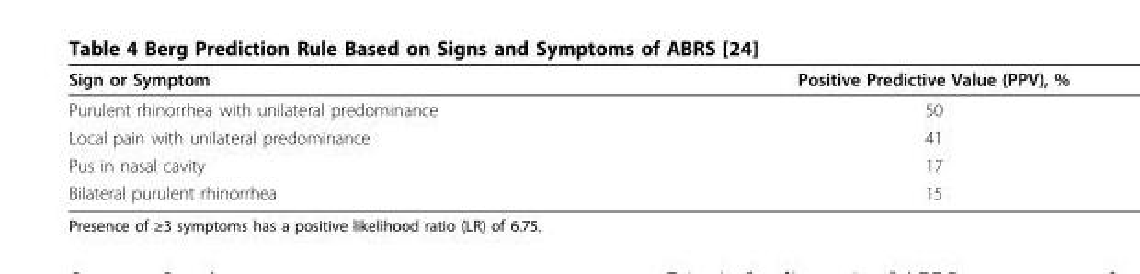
<table><thead><tr><td>Sign or Symptom</td><td>Positive Predictive Value (PPV), %</td></tr></thead><tbody><tr><td>Purulent rhinorrhea with unilateral predominance</td><td>50</td></tr><tr><td>Local pain with unilateral predominance</td><td>41</td></tr><tr><td>Pus in nasal cavity</td><td>17</td></tr><tr><td>Bilateral purulent rhinorrhea</td><td>15</td></tr></tbody></table>